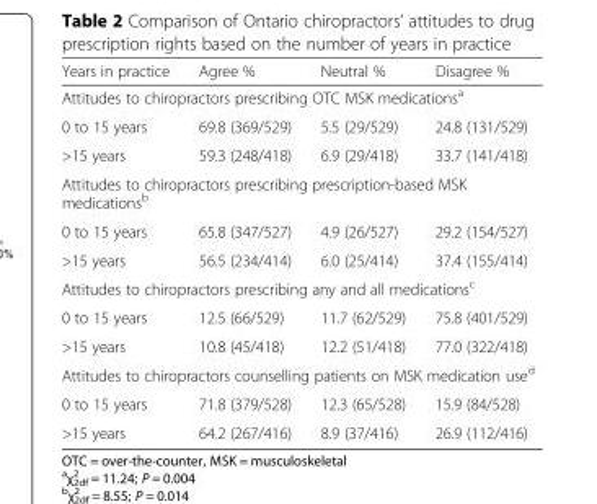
<table><thead><tr><td>Years in practice</td><td>Agree %</td><td>Neutral %</td><td>Disagree %</td></tr></thead><tbody><tr><td colspan="4">Attitudes to chiropractors prescribing OTC MSK medications<sup>a</sup></td></tr><tr><td>0 to 15 years</td><td>69.8 (369/529)</td><td>5.5 (29/529)</td><td>24.8 (131/529)</td></tr><tr><td>&gt;15 years</td><td>59.3 (248/418)</td><td>6.9 (29/418)</td><td>33.7 (141/418)</td></tr><tr><td colspan="4">Attitudes to chiropractors prescribing prescription-based MSK medications<sup>b</sup></td></tr><tr><td>0 to 15 years</td><td>65.8 (347/527)</td><td>4.9 (26/527)</td><td>29.2 (154/527)</td></tr><tr><td>&gt;15 years</td><td>56.5 (234/414)</td><td>6.0 (25/414)</td><td>37.4 (155/414)</td></tr><tr><td colspan="4">Attitudes to chiropractors prescribing any and all medications<sup>c</sup></td></tr><tr><td>0 to 15 years</td><td>12.5 (66/529)</td><td>11.7 (62/529)</td><td>75.8 (401/529)</td></tr><tr><td>&gt;15 years</td><td>10.8 (45/418)</td><td>12.2 (51/418)</td><td>77.0 (322/418)</td></tr><tr><td colspan="4">Attitudes to chiropractors counselling patients on MSK medication use<sup>d</sup></td></tr><tr><td>0 to 15 years</td><td>71.8 (379/528)</td><td>12.3 (65/528)</td><td>15.9 (84/528)</td></tr><tr><td>&gt;15 years</td><td>64.2 (267/416)</td><td>8.9 (37/416)</td><td>26.9 (112/416)</td></tr></tbody></table>